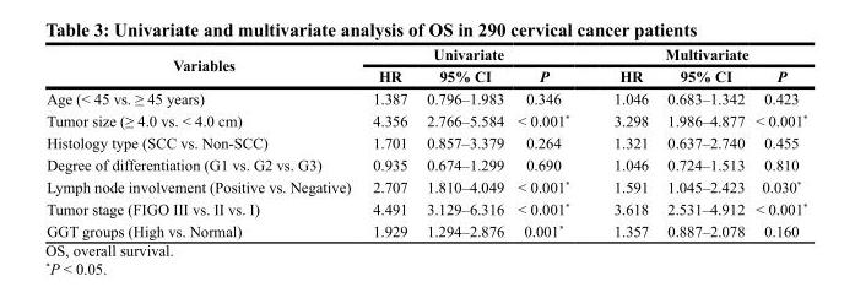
<table><thead><tr><td rowspan="2">Variables</td><td colspan="3">Univariate</td><td colspan="3">Multivariate</td></tr><tr><td>HR</td><td>95% CI</td><td>P</td><td>HR</td><td>95% CI</td><td>P</td></tr></thead><tbody><tr><td>Age (&lt; 45 vs. ≥ 45 years)</td><td>1.387</td><td>0.796–1.983</td><td>0.346</td><td>1.046</td><td>0.683–1.342</td><td>0.423</td></tr><tr><td>Tumor size (≥ 4.0 vs. &lt; 4.0 cm)</td><td>4.356</td><td>2.766–5.584</td><td>&lt; 0.001*</td><td>3.298</td><td>1.986–4.877</td><td>&lt; 0.001*</td></tr><tr><td>Histology type (SCC vs. Non-SCC)</td><td>1.701</td><td>0.857–3.379</td><td>0.264</td><td>1.321</td><td>0.637–2.740</td><td>0.455</td></tr><tr><td>Degree of differentiation (G1 vs. G2 vs. G3)</td><td>0.935</td><td>0.674–1.299</td><td>0.690</td><td>1.046</td><td>0.724–1.513</td><td>0.810</td></tr><tr><td>Lymph node involvement (Positive vs. Negative)</td><td>2.707</td><td>1.810–4.049</td><td>&lt; 0.001*</td><td>1.591</td><td>1.045–2.423</td><td>0.030*</td></tr><tr><td>Tumor stage (FIGO III vs. II vs. I)</td><td>4.491</td><td>3.129–6.316</td><td>&lt; 0.001*</td><td>3.618</td><td>2.531–4.912</td><td>&lt; 0.001*</td></tr><tr><td>GGT groups (High vs. Normal)</td><td>1.929</td><td>1.294–2.876</td><td>0.001*</td><td>1.357</td><td>0.887–2.078</td><td>0.160</td></tr></tbody></table>